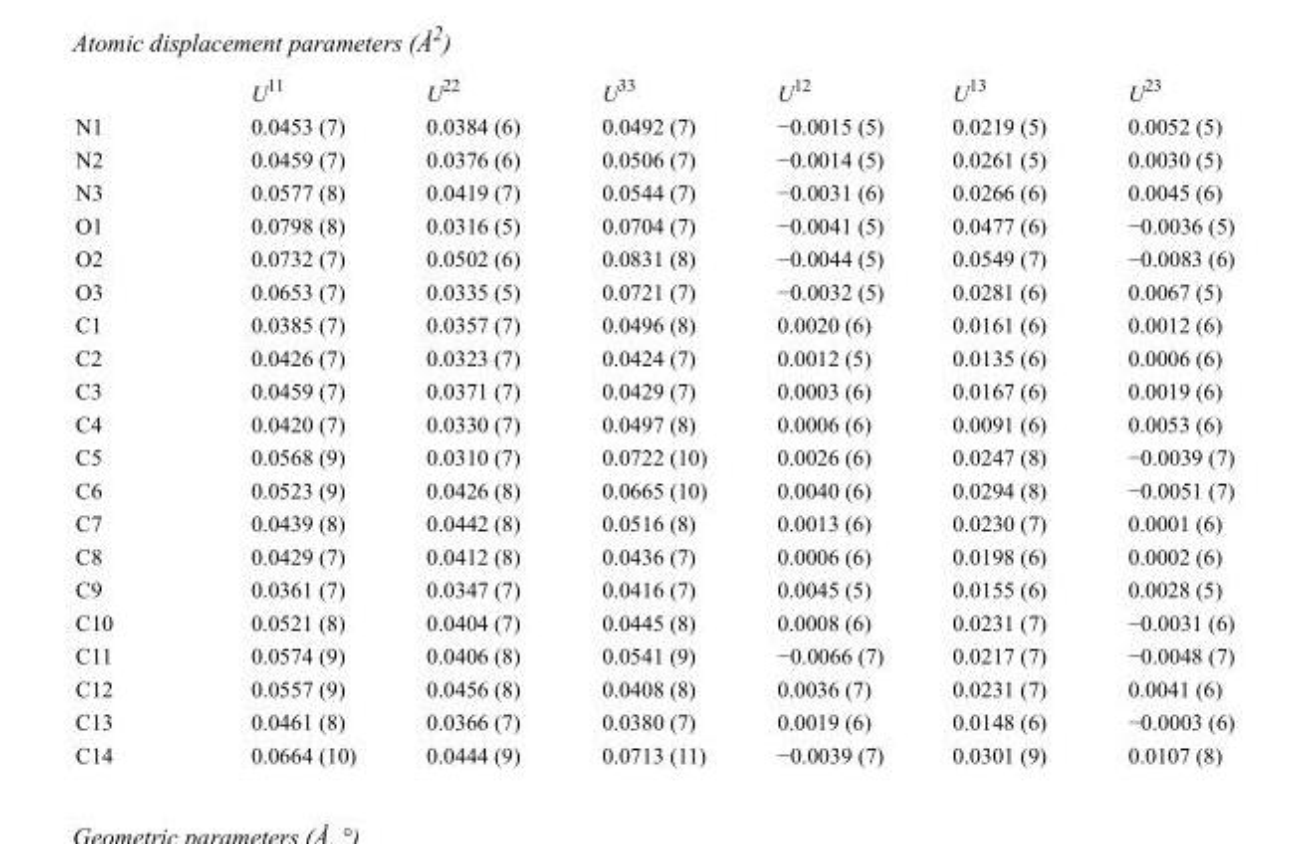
<table><thead><tr><td></td><td>U<sup>11</sup></td><td>U<sup>22</sup></td><td>U<sup>33</sup></td><td>U<sup>12</sup></td><td>U<sup>13</sup></td><td>U<sup>23</sup></td></tr></thead><tbody><tr><td>N1</td><td>0.0453 (7)</td><td>0.0384 (6)</td><td>0.0492 (7)</td><td>−0.0015 (5)</td><td>0.0219 (5)</td><td>0.0052 (5)</td></tr><tr><td>N2</td><td>0.0459 (7)</td><td>0.0376 (6)</td><td>0.0506 (7)</td><td>−0.0014 (5)</td><td>0.0261 (5)</td><td>0.0030 (5)</td></tr><tr><td>N3</td><td>0.0577 (8)</td><td>0.0419 (7)</td><td>0.0544 (7)</td><td>−0.0031 (6)</td><td>0.0266 (6)</td><td>0.0045 (6)</td></tr><tr><td>O1</td><td>0.0798 (8)</td><td>0.0316 (5)</td><td>0.0704 (7)</td><td>−0.0041 (5)</td><td>0.0477 (6)</td><td>−0.0036 (5)</td></tr><tr><td>O2</td><td>0.0732 (7)</td><td>0.0502 (6)</td><td>0.0831 (8)</td><td>−0.0044 (5)</td><td>0.0549 (7)</td><td>−0.0083 (6)</td></tr><tr><td>O3</td><td>0.0653 (7)</td><td>0.0335 (5)</td><td>0.0721 (7)</td><td>−0.0032 (5)</td><td>0.0281 (6)</td><td>0.0067 (5)</td></tr><tr><td>C1</td><td>0.0385 (7)</td><td>0.0357 (7)</td><td>0.0496 (8)</td><td>0.0020 (6)</td><td>0.0161 (6)</td><td>0.0012 (6)</td></tr><tr><td>C2</td><td>0.0426 (7)</td><td>0.0323 (7)</td><td>0.0424 (7)</td><td>0.0012 (5)</td><td>0.0135 (6)</td><td>0.0006 (6)</td></tr><tr><td>C3</td><td>0.0459 (7)</td><td>0.0371 (7)</td><td>0.0429 (7)</td><td>0.0003 (6)</td><td>0.0167 (6)</td><td>0.0019 (6)</td></tr><tr><td>C4</td><td>0.0420 (7)</td><td>0.0330 (7)</td><td>0.0497 (8)</td><td>0.0006 (6)</td><td>0.0091 (6)</td><td>0.0053 (6)</td></tr><tr><td>C5</td><td>0.0568 (9)</td><td>0.0310 (7)</td><td>0.0722 (10)</td><td>0.0026 (6)</td><td>0.0247 (8)</td><td>−0.0039 (7)</td></tr><tr><td>C6</td><td>0.0523 (9)</td><td>0.0426 (8)</td><td>0.0665 (10)</td><td>0.0040 (6)</td><td>0.0294 (8)</td><td>−0.0051 (7)</td></tr><tr><td>C7</td><td>0.0439 (8)</td><td>0.0442 (8)</td><td>0.0516 (8)</td><td>0.0013 (6)</td><td>0.0230 (7)</td><td>0.0001 (6)</td></tr><tr><td>C8</td><td>0.0429 (7)</td><td>0.0412 (8)</td><td>0.0436 (7)</td><td>0.0006 (6)</td><td>0.0198 (6)</td><td>0.0002 (6)</td></tr><tr><td>C9</td><td>0.0361 (7)</td><td>0.0347 (7)</td><td>0.0416 (7)</td><td>0.0045 (5)</td><td>0.0155 (6)</td><td>0.0028 (5)</td></tr><tr><td>C10</td><td>0.0521 (8)</td><td>0.0404 (7)</td><td>0.0445 (8)</td><td>0.0008 (6)</td><td>0.0231 (7)</td><td>−0.0031 (6)</td></tr><tr><td>C11</td><td>0.0574 (9)</td><td>0.0406 (8)</td><td>0.0541 (9)</td><td>−0.0066 (7)</td><td>0.0217 (7)</td><td>−0.0048 (7)</td></tr><tr><td>C12</td><td>0.0557 (9)</td><td>0.0456 (8)</td><td>0.0408 (8)</td><td>0.0036 (7)</td><td>0.0231 (7)</td><td>0.0041 (6)</td></tr><tr><td>C13</td><td>0.0461 (8)</td><td>0.0366 (7)</td><td>0.0380 (7)</td><td>0.0019 (6)</td><td>0.0148 (6)</td><td>−0.0003 (6)</td></tr><tr><td>C14</td><td>0.0664 (10)</td><td>0.0444 (9)</td><td>0.0713 (11)</td><td>−0.0039 (7)</td><td>0.0301 (9)</td><td>0.0107 (8)</td></tr></tbody></table>